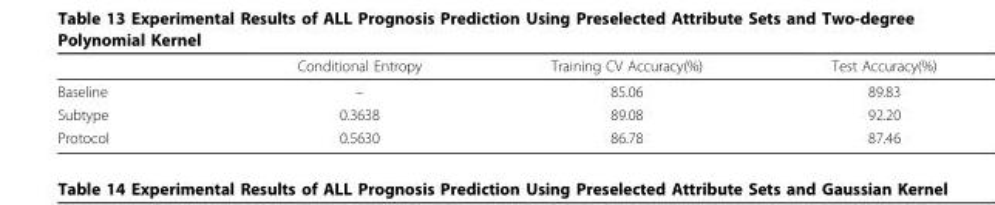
<table><thead><tr><td></td><td>Conditional Entropy</td><td>Training CV Accuracy(%)</td><td>Test Accuracy(%)</td></tr></thead><tbody><tr><td>Baseline</td><td>–</td><td>85.06</td><td>89.83</td></tr><tr><td>Subtype</td><td>0.3638</td><td>89.08</td><td>92.20</td></tr><tr><td>Protocol</td><td>0.5630</td><td>86.78</td><td>87.46</td></tr></tbody></table>